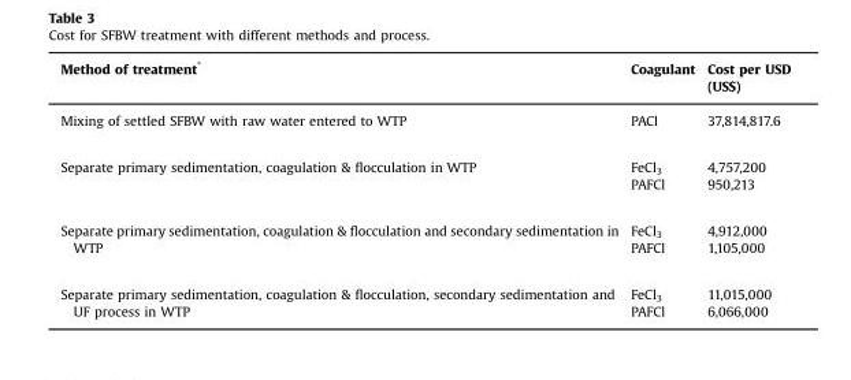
<table><thead><tr><td>Method of treatment*</td><td>Coagulant</td><td>Cost per USD (US$)</td></tr></thead><tbody><tr><td>Mixing of settled SFBW with raw water entered to WTP</td><td>PACl</td><td>37,814,817.6</td></tr><tr><td rowspan="2">Separate primary sedimentation, coagulation &amp; flocculation in WTP</td><td>FeCl<sub>3</sub></td><td>4,757,200</td></tr><tr><td>PAFCl</td><td>950,213</td></tr><tr><td rowspan="2">Separate primary sedimentation, coagulation &amp; flocculation and secondary sedimentation in WTP</td><td>FeCl<sub>3</sub></td><td>4,912,000</td></tr><tr><td>PAFCl</td><td>1,105,000</td></tr><tr><td rowspan="2">Separate primary sedimentation, coagulation &amp; flocculation, secondary sedimentation and UF process in WTP</td><td>FeCl<sub>3</sub></td><td>11,015,000</td></tr><tr><td>PAFCl</td><td>6,066,000</td></tr></tbody></table>